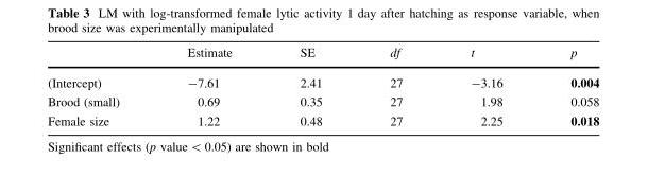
<table><thead><tr><td></td><td>Estimate</td><td>SE</td><td>df</td><td>t</td><td>p</td></tr></thead><tbody><tr><td>(Intercept)</td><td>-7.61</td><td>2.41</td><td>27</td><td>-3.16</td><td>0.004</td></tr><tr><td>Brood (small)</td><td>0.69</td><td>0.35</td><td>27</td><td>1.98</td><td>0.058</td></tr><tr><td>Female size</td><td>1.22</td><td>0.48</td><td>27</td><td>2.25</td><td>0.018</td></tr></tbody></table>